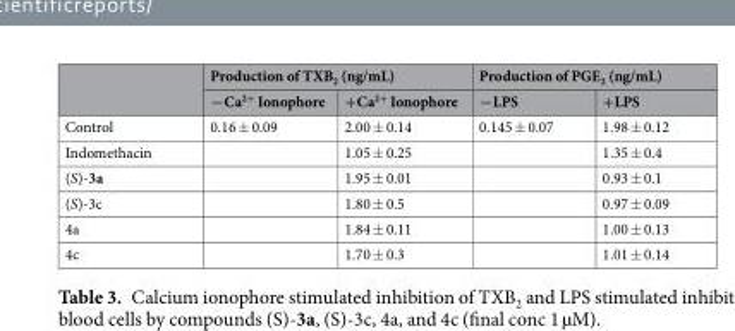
<table><thead><tr><td rowspan="2"></td><td colspan="2">Production of TXB<sub>2</sub> (ng/mL)</td><td colspan="2">Production of PGE<sub>2</sub> (ng/mL)</td></tr><tr><td>−Ca<sup>2+</sup> Ionophore</td><td>+Ca<sup>2+</sup> Ionophore</td><td>−LPS</td><td>+LPS</td></tr></thead><tbody><tr><td>Control</td><td>0.16 ± 0.09</td><td>2.00 ± 0.14</td><td>0.145 ± 0.07</td><td>1.98 ± 0.12</td></tr><tr><td>Indomethacin</td><td></td><td>1.05 ± 0.25</td><td></td><td>1.35 ± 0.4</td></tr><tr><td>(S)-3a</td><td></td><td>1.95 ± 0.01</td><td></td><td>0.93 ± 0.1</td></tr><tr><td>(S)-3c</td><td></td><td>1.80 ± 0.5</td><td></td><td>0.97 ± 0.09</td></tr><tr><td>4a</td><td></td><td>1.84 ± 0.11</td><td></td><td>1.00 ± 0.13</td></tr><tr><td>4c</td><td></td><td>1.70 ± 0.3</td><td></td><td>1.01 ± 0.14</td></tr></tbody></table>